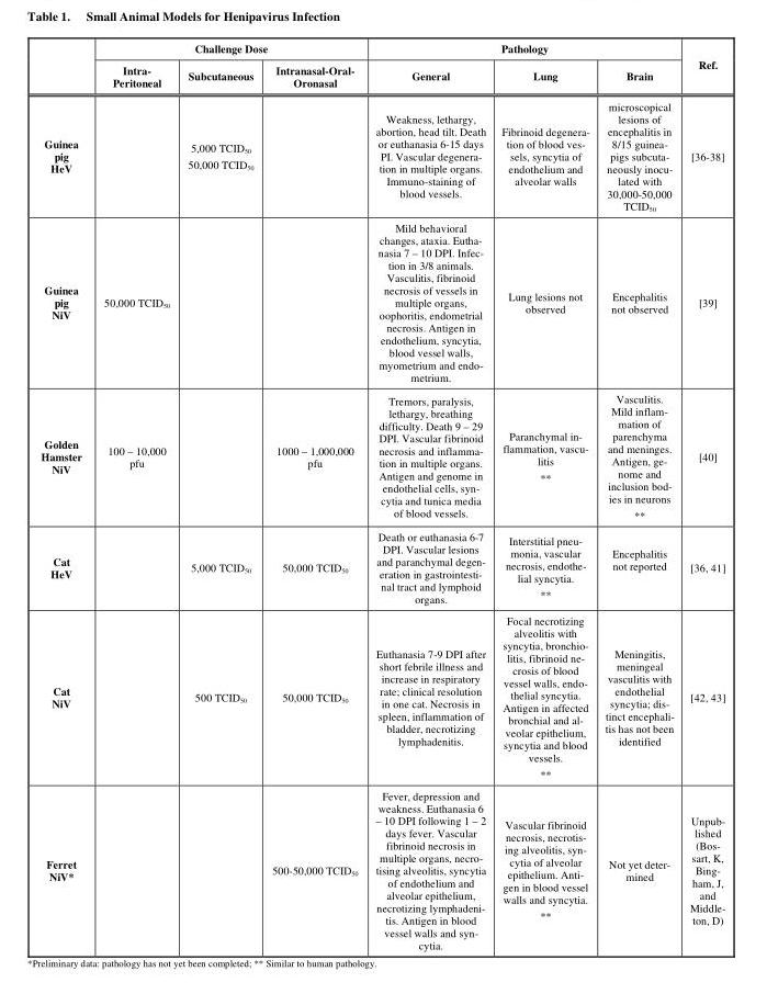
<table><thead><tr><td rowspan="2"></td><td colspan="3">Challenge Dose</td><td colspan="3">Pathology</td><td rowspan="2">Ref.</td></tr><tr><td>Intra- Peritoneal</td><td>Subcutaneous</td><td>Intranasal-Oral- Oronasal</td><td>General</td><td>Lung</td><td>Brain</td></tr></thead><tbody><tr><td>Guinea pig HeV</td><td></td><td>5,000 TCID<sub>50</sub> 50,000 TCID<sub>50</sub></td><td></td><td>Weakness, lethargy, abortion, head tilt. Death or euthanasia 6-15 days PI. Vascular degenera- tion in multiple organs. Immuno-staining of blood vessels.</td><td>Fibrinoid degenera- tion of blood ves- sels, syncytia of endothelium and alveolar walls</td><td>microscopical lesions of encephalitis in 8/15 guinea- pigs subcuta- neously inocu- lated with 30,000-50,000 TCID50</td><td>[36-38]</td></tr><tr><td>Guinea pig NiV</td><td>50,000 TCID<sub>50</sub></td><td></td><td></td><td>Mild behavioral changes, ataxia. Eutha- nasia 7 – 10 DPI. Infec- tion in 3/8 animals. Vasculitis, fibrinoid necrosis of vessels in multiple organs, oophoritis, endometrial necrosis. Antigen in endothelium, syncytia, blood vessel walls, myometrium and endo- metrium.</td><td>Lung lesions not observed</td><td>Encephalitis not observed</td><td>[39]</td></tr><tr><td>Golden Hamster NiV</td><td>100 – 10,000 pfu</td><td></td><td>1000 – 1,000,000 pfu</td><td>Tremors, paralysis, lethargy, breathing difficulty. Death 9 – 29 DPI. Vascular fibrinoid necrosis and inflamma- tion in multiple organs. Antigen and genome in endothelial cells, syn- cytia and tunica media of blood vessels.</td><td>Paranchymal in- flammation, vascu- litis **</td><td>Vasculitis. Mild inflam- mation of parenchyma and meninges. Antigen, ge- nome and inclusion bod- ies in neurons **</td><td>[40]</td></tr><tr><td>Cat HeV</td><td></td><td>5,000 TCID<sub>50</sub></td><td>50,000 TCID<sub>50</sub></td><td>Death or euthanasia 6-7 DPI. Vascular lesions and paranchymal degen- eration in gastrointesti- nal tract and lymphoid organs.</td><td>Interstitial pneu- monia, vascular necrosis, endothe- lial syncytia. **</td><td>Encephalitis not reported</td><td>[36, 41]</td></tr><tr><td>Cat NiV</td><td></td><td>500 TCID<sub>50</sub></td><td>50,000 TCID<sub>50</sub></td><td>Euthanasia 7-9 DPI after short febrile illness and increase in respiratory rate; clinical resolution in one cat. Necrosis in spleen, inflammation of bladder, necrotizing lymphadenitis.</td><td>Focal necrotizing alveolitis with syncytia, bronchio- litis, fibrinoid ne- crosis of blood vessel walls, endo- thelial syncytia. Antigen in affected bronchial and al- veolar epithelium, syncytia and blood vessels. **</td><td>Meningitis, meningeal vasculitis with endothelial syncytia; dis- tinct encephali- tis has not been identified</td><td>[42, 43]</td></tr><tr><td>Ferret NiV*</td><td></td><td></td><td>500-50,000 TCID<sub>50</sub></td><td>Fever, depression and weakness. Euthanasia 6 – 10 DPI following 1 – 2 days fever. Vascular fibrinoid necrosis in multiple organs, necro- tising alveolitis, syncytia of endothelium and alveolar epithelium, necrotizing lymphadeni- tis. Antigen in blood vessel walls and syn- cytia.</td><td>Vascular fibrinoid necrosis, necrotis- ing alveolitis, syn- cytia of alveolar epithelium. Anti- gen in blood vessel walls and syncytia. **</td><td>Not yet deter- mined</td><td>Unpub- lished (Bos- sart, K, Bing- ham, J, and Middle- ton, D)</td></tr></tbody></table>